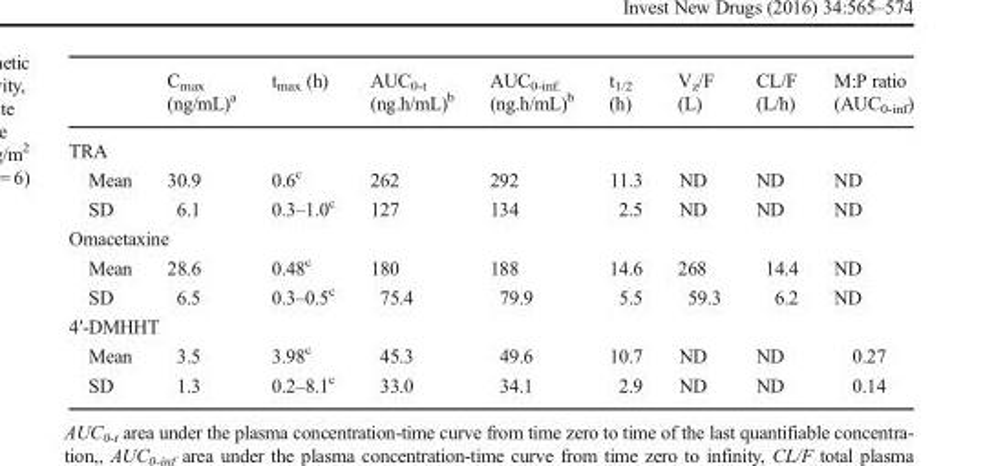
<table><thead><tr><td></td><td>C<sub>max</sub> (ng/mL)<sup>a</sup></td><td>t<sub>max</sub> (h)</td><td>AUC<sub>0-t</sub> (ng.h/mL)<sup>b</sup></td><td>AUC<sub>0-inf.</sub> (ng.h/mL)<sup>b</sup></td><td>t<sub>1/2</sub> (h)</td><td>V<sub>z</sub>/F (L)</td><td>CL/F (L/h)</td><td>M:P ratio (AUC<sub>0-inf</sub>)</td></tr></thead><tbody><tr><td colspan="9">TRA</td></tr><tr><td>Mean</td><td>30.9</td><td>0.6<sup>c</sup></td><td>262</td><td>292</td><td>11.3</td><td>ND</td><td>ND</td><td>ND</td></tr><tr><td>SD</td><td>6.1</td><td>0.3–1.0<sup>c</sup></td><td>127</td><td>134</td><td>2.5</td><td>ND</td><td>ND</td><td>ND</td></tr><tr><td colspan="9">Omacetaxine</td></tr><tr><td>Mean</td><td>28.6</td><td>0.48<sup>c</sup></td><td>180</td><td>188</td><td>14.6</td><td>268</td><td>14.4</td><td>ND</td></tr><tr><td>SD</td><td>6.5</td><td>0.3–0.5<sup>c</sup></td><td>75.4</td><td>79.9</td><td>5.5</td><td>59.3</td><td>6.2</td><td>ND</td></tr><tr><td colspan="9">4′-DMHHT</td></tr><tr><td>Mean</td><td>3.5</td><td>3.98<sup>c</sup></td><td>45.3</td><td>49.6</td><td>10.7</td><td>ND</td><td>ND</td><td>0.27</td></tr><tr><td>SD</td><td>1.3</td><td>0.2–8.1<sup>c</sup></td><td>33.0</td><td>34.1</td><td>2.9</td><td>ND</td><td>ND</td><td>0.14</td></tr></tbody></table>